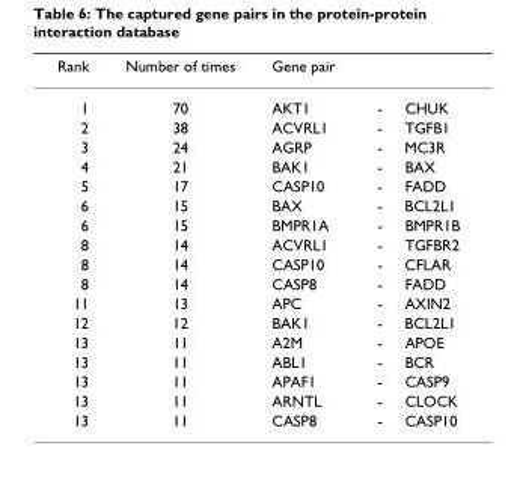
<table><thead><tr><td>Rank</td><td>Number of times</td><td>Gene pair</td><td></td><td></td></tr></thead><tbody><tr><td>1</td><td>70</td><td>AKT1</td><td>-</td><td>CHUK</td></tr><tr><td>2</td><td>38</td><td>ACVRL1</td><td>-</td><td>TGFB1</td></tr><tr><td>3</td><td>24</td><td>AGRP</td><td>-</td><td>MC3R</td></tr><tr><td>4</td><td>21</td><td>BAK1</td><td>-</td><td>BAX</td></tr><tr><td>5</td><td>17</td><td>CASP10</td><td>-</td><td>FADD</td></tr><tr><td>6</td><td>15</td><td>BAX</td><td>-</td><td>BCL2L1</td></tr><tr><td>6</td><td>15</td><td>BMPR1A</td><td>-</td><td>BMPR1B</td></tr><tr><td>8</td><td>14</td><td>ACVRL1</td><td>-</td><td>TGFBR2</td></tr><tr><td>8</td><td>14</td><td>CASP10</td><td>-</td><td>CFLAR</td></tr><tr><td>8</td><td>14</td><td>CASP8</td><td>-</td><td>FADD</td></tr><tr><td>11</td><td>13</td><td>APC</td><td>-</td><td>AXIN2</td></tr><tr><td>12</td><td>12</td><td>BAK1</td><td>-</td><td>BCL2L1</td></tr><tr><td>13</td><td>11</td><td>A2M</td><td>-</td><td>APOE</td></tr><tr><td>13</td><td>11</td><td>ABL1</td><td>-</td><td>BCR</td></tr><tr><td>13</td><td>11</td><td>APAF1</td><td>-</td><td>CASP9</td></tr><tr><td>13</td><td>11</td><td>ARNTL</td><td>-</td><td>CLOCK</td></tr><tr><td>13</td><td>11</td><td>CASP8</td><td>-</td><td>CASP10</td></tr></tbody></table>